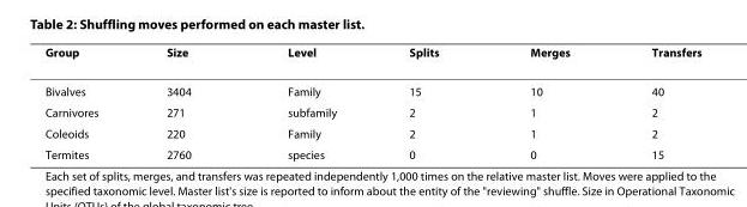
<table><thead><tr><td>Group</td><td>Size</td><td>Level</td><td>Splits</td><td>Merges</td><td>Transfers</td></tr></thead><tbody><tr><td>Bivalves</td><td>3404</td><td>Family</td><td>15</td><td>10</td><td>40</td></tr><tr><td>Carnivores</td><td>271</td><td>subfamily</td><td>2</td><td>1</td><td>2</td></tr><tr><td>Coleoids</td><td>220</td><td>Family</td><td>2</td><td>1</td><td>2</td></tr><tr><td>Termites</td><td>2760</td><td>species</td><td>0</td><td>0</td><td>15</td></tr></tbody></table>